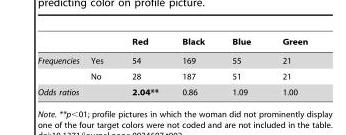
<table><thead><tr><td></td><td></td><td>Red</td><td>Black</td><td>Blue</td><td>Green</td></tr></thead><tbody><tr><td rowspan="2">Frequencies</td><td>Yes</td><td>54</td><td>169</td><td>55</td><td>21</td></tr><tr><td>No</td><td>28</td><td>187</td><td>51</td><td>21</td></tr><tr><td>Odds ratios</td><td></td><td>2.04**</td><td>0.86</td><td>1.09</td><td>1.00</td></tr></tbody></table>